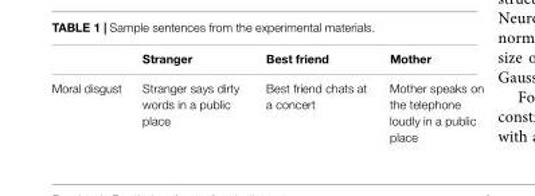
<table><thead><tr><td></td><td>Stranger</td><td>Best friend</td><td>Mother</td></tr></thead><tbody><tr><td>Moral disgust</td><td>Stranger says dirty words in a public place</td><td>Best friend chats at a concert</td><td>Mother speaks on the telephone loudly in a public place</td></tr></tbody></table>